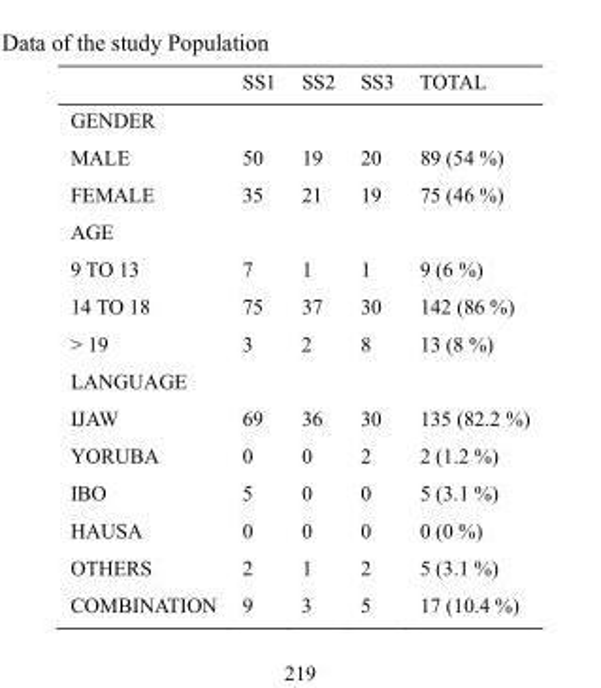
<table><thead><tr><td></td><td>SS1</td><td>SS2</td><td>SS3</td><td>TOTAL</td></tr></thead><tbody><tr><td colspan="5">GENDER</td></tr><tr><td>MALE</td><td>50</td><td>19</td><td>20</td><td>89 (54 %)</td></tr><tr><td>FEMALE</td><td>35</td><td>21</td><td>19</td><td>75 (46 %)</td></tr><tr><td colspan="5">AGE</td></tr><tr><td>9 TO 13</td><td>7</td><td>1</td><td>1</td><td>9 (6 %)</td></tr><tr><td>14 TO 18</td><td>75</td><td>37</td><td>30</td><td>142 (86 %)</td></tr><tr><td>&gt; 19</td><td>3</td><td>2</td><td>8</td><td>13 (8 %)</td></tr><tr><td colspan="5">LANGUAGE</td></tr><tr><td>IJAW</td><td>69</td><td>36</td><td>30</td><td>135 (82.2 %)</td></tr><tr><td>YORUBA</td><td>0</td><td>0</td><td>2</td><td>2 (1.2 %)</td></tr><tr><td>IBO</td><td>5</td><td>0</td><td>0</td><td>5 (3.1 %)</td></tr><tr><td>HAUSA</td><td>0</td><td>0</td><td>0</td><td>0 (0 %)</td></tr><tr><td>OTHERS</td><td>2</td><td>1</td><td>2</td><td>5 (3.1 %)</td></tr><tr><td>COMBINATION</td><td>9</td><td>3</td><td>5</td><td>17 (10.4 %)</td></tr></tbody></table>